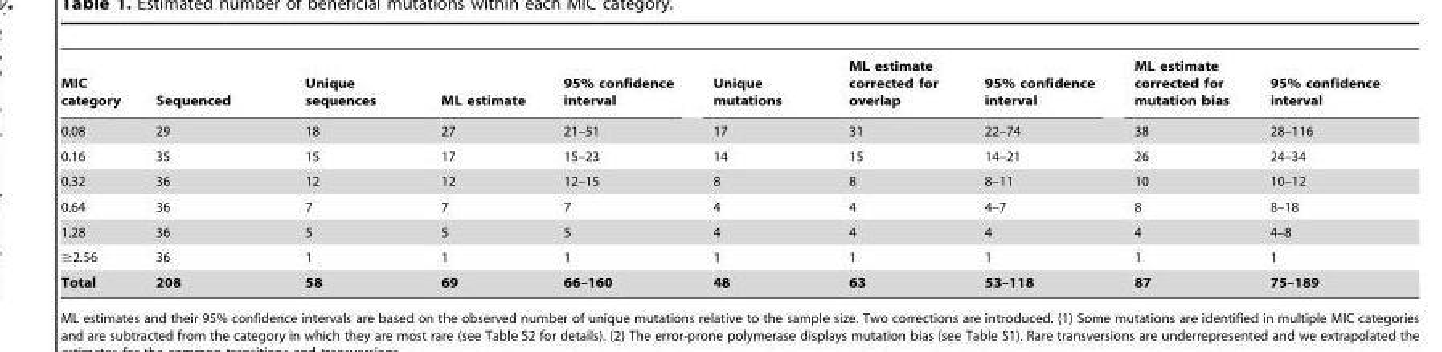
<table><thead><tr><td>MIC category</td><td>Sequenced</td><td>Unique sequences</td><td>ML estimate</td><td>95% confidence interval</td><td>Unique mutations</td><td>ML estimate corrected for overlap</td><td>95% confidence interval</td><td>ML estimate corrected for mutation bias</td><td>95% confidence interval</td></tr></thead><tbody><tr><td>0.08</td><td>29</td><td>18</td><td>27</td><td>21–51</td><td>17</td><td>31</td><td>22–74</td><td>38</td><td>28–116</td></tr><tr><td>0.16</td><td>35</td><td>15</td><td>17</td><td>15–23</td><td>14</td><td>15</td><td>14–21</td><td>26</td><td>24–34</td></tr><tr><td>0.32</td><td>36</td><td>12</td><td>12</td><td>12–15</td><td>8</td><td>8</td><td>8–11</td><td>10</td><td>10–12</td></tr><tr><td>0.64</td><td>36</td><td>7</td><td>7</td><td>7</td><td>4</td><td>4</td><td>4–7</td><td>8</td><td>8–18</td></tr><tr><td>1.28</td><td>36</td><td>5</td><td>5</td><td>5</td><td>4</td><td>4</td><td>4</td><td>4</td><td>4–8</td></tr><tr><td>≥2.56</td><td>36</td><td>1</td><td>1</td><td>1</td><td>1</td><td>1</td><td>1</td><td>1</td><td>1</td></tr><tr><td>Total</td><td>208</td><td>58</td><td>69</td><td>66–160</td><td>48</td><td>63</td><td>53–118</td><td>87</td><td>75–189</td></tr></tbody></table>